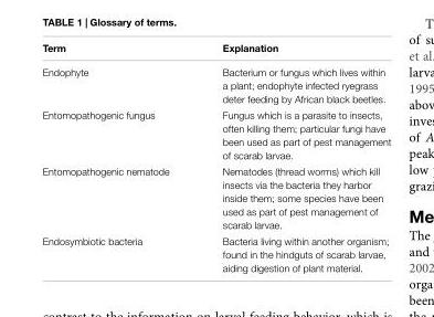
<table><thead><tr><td>Term</td><td>Explanation</td></tr></thead><tbody><tr><td>Endophyte</td><td>Bacterium or fungus which lives within a plant; endophyte infected ryegrass deter feeding by African black beetles.</td></tr><tr><td>Entomopathogenic fungus</td><td>Fungus which is a parasite to insects, often killing them; particular fungi have been used as part of pest management of scarab larvae.</td></tr><tr><td>Entomopathogenic nematode</td><td>Nematodes (thread worms) which kill insects via the bacteria they harbor inside them; some species have been used as part of pest management of scarab larvae.</td></tr><tr><td>Endosymbiotic bacteria</td><td>Bacteria living within another organism; found in the hindguts of scarab larvae, aiding digestion of plant material.</td></tr></tbody></table>